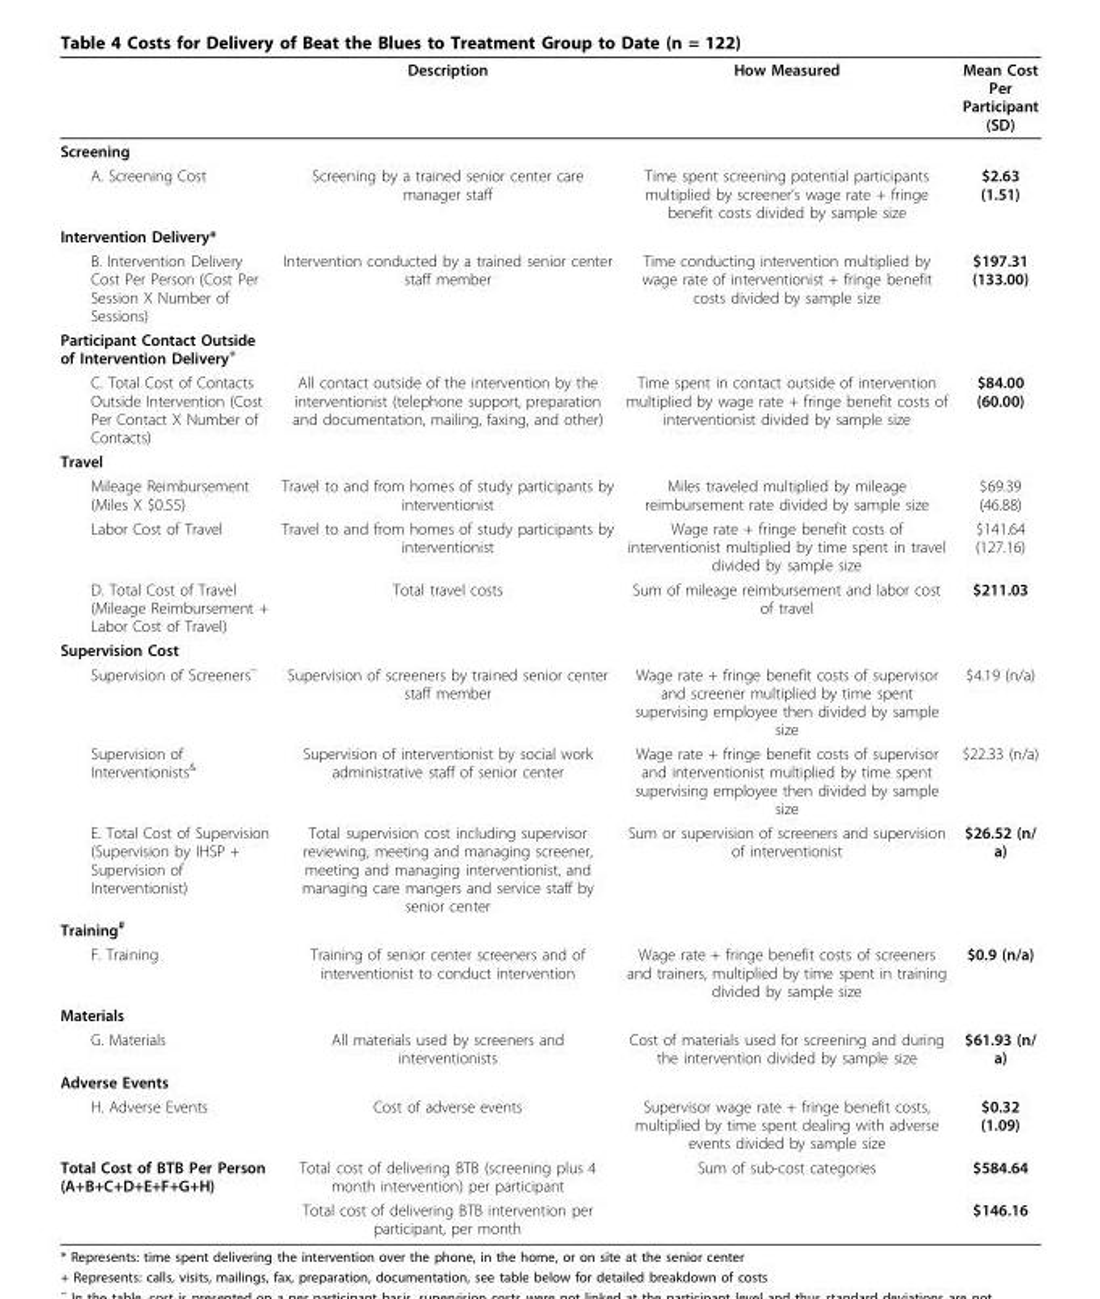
<table><thead><tr><td></td><td>Description</td><td>How Measured</td><td>Mean Cost Per Participant (SD)</td></tr></thead><tbody><tr><td colspan="4">Screening</td></tr><tr><td>A. Screening Cost</td><td>Screening by a trained senior center care manager staff</td><td>Time spent screening potential participants multiplied by screener’s wage rate + fringe benefit costs divided by sample size</td><td>$2.63 (1.51)</td></tr><tr><td colspan="4">Intervention Delivery*</td></tr><tr><td>B. Intervention Delivery Cost Per Person (Cost Per Session X Number of Sessions)</td><td>Intervention conducted by a trained senior center staff member</td><td>Time conducting intervention multiplied by wage rate of interventionist + fringe benefit costs divided by sample size</td><td>$197.31 (133.00)</td></tr><tr><td colspan="4">Participant Contact Outside of Intervention Delivery<sup>+</sup></td></tr><tr><td>C. Total Cost of Contacts Outside Intervention (Cost Per Contact X Number of Contacts)</td><td>All contact outside of the intervention by the interventionist (telephone support, preparation and documentation, mailing, faxing, and other)</td><td>Time spent in contact outside of intervention multiplied by wage rate + fringe benefit costs of interventionist divided by sample size</td><td>$84.00 (60.00)</td></tr><tr><td colspan="4">Travel</td></tr><tr><td>Mileage Reimbursement (Miles X $0.55)</td><td>Travel to and from homes of study participants by interventionist</td><td>Miles traveled multiplied by mileage reimbursement rate divided by sample size</td><td>$69.39 (46.88)</td></tr><tr><td>Labor Cost of Travel</td><td>Travel to and from homes of study participants by interventionist</td><td>Wage rate + fringe benefit costs of interventionist multiplied by time spent in travel divided by sample size</td><td>$141.64 (127.16)</td></tr><tr><td>D. Total Cost of Travel (Mileage Reimbursement + Labor Cost of Travel)</td><td>Total travel costs</td><td>Sum of mileage reimbursement and labor cost of travel</td><td>$211.03</td></tr><tr><td colspan="4">Supervision Cost</td></tr><tr><td>Supervision of Screeners<sup>~</sup></td><td>Supervision of screeners by trained senior center staff member</td><td>Wage rate + fringe benefit costs of supervisor and screener multiplied by time spent supervising employee then divided by sample size</td><td>$4.19 (n/a)</td></tr><tr><td>Supervision of Interventionists<sup>&amp;</sup></td><td>Supervision of interventionist by social work administrative staff of senior center</td><td>Wage rate + fringe benefit costs of supervisor and interventionist multiplied by time spent supervising employee then divided by sample size</td><td>$22.33 (n/a)</td></tr><tr><td>E. Total Cost of Supervision (Supervision by IHSP + Supervision of Interventionist)</td><td>Total supervision cost including supervisor reviewing, meeting and managing screener, meeting and managing interventionist, and managing care mangers and service staff by senior center</td><td>Sum or supervision of screeners and supervision of interventionist</td><td>$26.52 (n/ a)</td></tr><tr><td colspan="4">Training<sup>#</sup></td></tr><tr><td>F. Training</td><td>Training of senior center screeners and of interventionist to conduct intervention</td><td>Wage rate + fringe benefit costs of screeners and trainers, multiplied by time spent in training divided by sample size</td><td>$0.9 (n/a)</td></tr><tr><td colspan="4">Materials</td></tr><tr><td>G. Materials</td><td>All materials used by screeners and interventionists</td><td>Cost of materials used for screening and during the intervention divided by sample size</td><td>$61.93 (n/ a)</td></tr><tr><td colspan="4">Adverse Events</td></tr><tr><td>H. Adverse Events</td><td>Cost of adverse events</td><td>Supervisor wage rate + fringe benefit costs, multiplied by time spent dealing with adverse events divided by sample size</td><td>$0.32 (1.09)</td></tr><tr><td rowspan="2">Total Cost of BTB Per Person (A+B+C+D+E+F+G+H)</td><td>Total cost of delivering BTB (screening plus 4 month intervention) per participant</td><td>Sum of sub-cost categories</td><td>$584.64</td></tr><tr><td>Total cost of delivering BTB intervention per participant, per month</td><td></td><td>$146.16</td></tr></tbody></table>